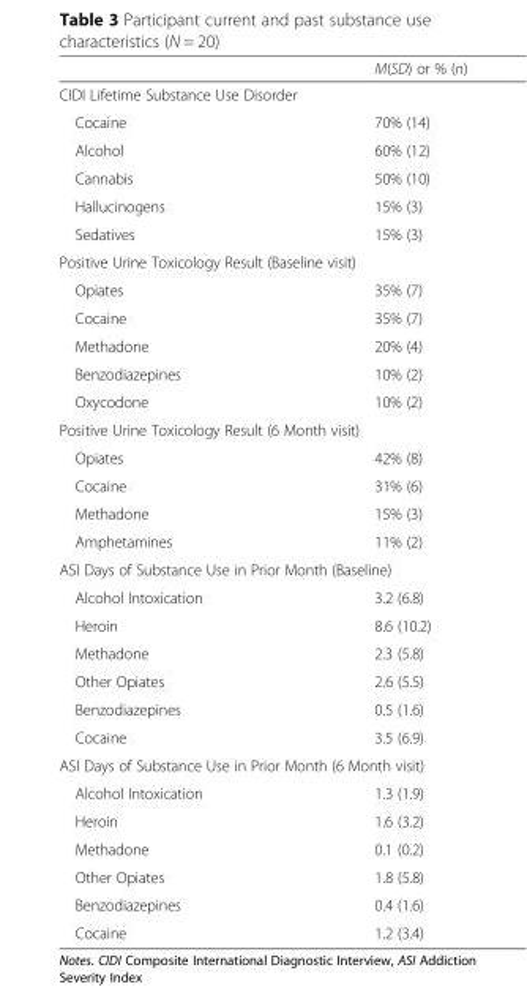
<table><thead><tr><td></td><td>M(SD) or % (n)</td></tr></thead><tbody><tr><td colspan="2">CIDI Lifetime Substance Use Disorder</td></tr><tr><td>Cocaine</td><td>70% (14)</td></tr><tr><td>Alcohol</td><td>60% (12)</td></tr><tr><td>Cannabis</td><td>50% (10)</td></tr><tr><td>Hallucinogens</td><td>15% (3)</td></tr><tr><td>Sedatives</td><td>15% (3)</td></tr><tr><td colspan="2">Positive Urine Toxicology Result (Baseline visit)</td></tr><tr><td>Opiates</td><td>35% (7)</td></tr><tr><td>Cocaine</td><td>35% (7)</td></tr><tr><td>Methadone</td><td>20% (4)</td></tr><tr><td>Benzodiazepines</td><td>10% (2)</td></tr><tr><td>Oxycodone</td><td>10% (2)</td></tr><tr><td colspan="2">Positive Urine Toxicology Result (6 Month visit)</td></tr><tr><td>Opiates</td><td>42% (8)</td></tr><tr><td>Cocaine</td><td>31% (6)</td></tr><tr><td>Methadone</td><td>15% (3)</td></tr><tr><td>Amphetamines</td><td>11% (2)</td></tr><tr><td colspan="2">ASI Days of Substance Use in Prior Month (Baseline)</td></tr><tr><td>Alcohol Intoxication</td><td>3.2 (6.8)</td></tr><tr><td>Heroin</td><td>8.6 (10.2)</td></tr><tr><td>Methadone</td><td>2.3 (5.8)</td></tr><tr><td>Other Opiates</td><td>2.6 (5.5)</td></tr><tr><td>Benzodiazepines</td><td>0.5 (1.6)</td></tr><tr><td>Cocaine</td><td>3.5 (6.9)</td></tr><tr><td colspan="2">ASI Days of Substance Use in Prior Month (6 Month visit)</td></tr><tr><td>Alcohol Intoxication</td><td>1.3 (1.9)</td></tr><tr><td>Heroin</td><td>1.6 (3.2)</td></tr><tr><td>Methadone</td><td>0.1 (0.2)</td></tr><tr><td>Other Opiates</td><td>1.8 (5.8)</td></tr><tr><td>Benzodiazepines</td><td>0.4 (1.6)</td></tr><tr><td>Cocaine</td><td>1.2 (3.4)</td></tr></tbody></table>